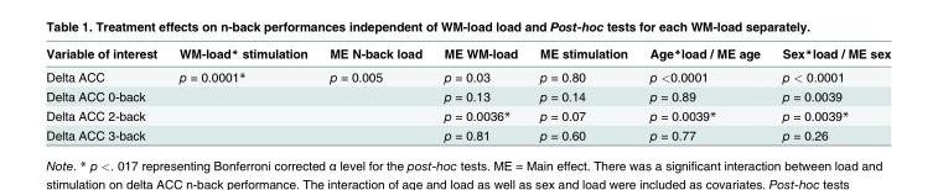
<table><thead><tr><td>Variable of interest</td><td>WM-load* stimulation</td><td>ME N-back load</td><td>ME WM-load</td><td>ME stimulation</td><td>Age*load / ME age</td><td>Sex*load / ME sex</td></tr></thead><tbody><tr><td>Delta ACC</td><td>p = 0.0001*</td><td>p = 0.005</td><td>p = 0.03</td><td>p = 0.80</td><td>p &lt;0.0001</td><td>p &lt; 0.0001</td></tr><tr><td>Delta ACC 0-back</td><td></td><td></td><td>p = 0.13</td><td>p = 0.14</td><td>p = 0.89</td><td>p = 0.0039</td></tr><tr><td>Delta ACC 2-back</td><td></td><td></td><td>p = 0.0036*</td><td>p = 0.07</td><td>p = 0.0039*</td><td>p = 0.0039*</td></tr><tr><td>Delta ACC 3-back</td><td></td><td></td><td>p = 0.81</td><td>p = 0.60</td><td>p = 0.77</td><td>p = 0.26</td></tr></tbody></table>